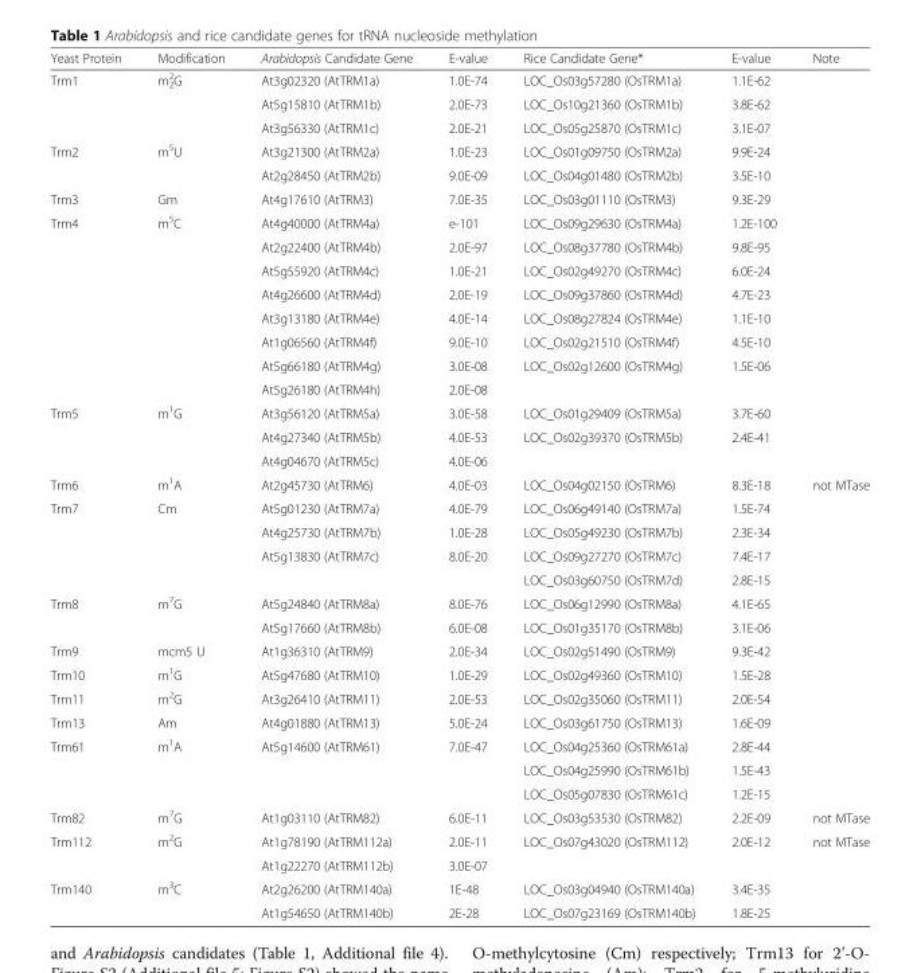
<table><thead><tr><td>Yeast Protein</td><td>Modification</td><td>Arabidopsis Candidate Gene</td><td>E-value</td><td>Rice Candidate Gene*</td><td>E-value</td><td>Note</td></tr></thead><tbody><tr><td rowspan="3">Trm1</td><td>m<sup>2</sup> <sub>2</sub>G</td><td>At3g02320 (AtTRM1a)</td><td>1.0E-74</td><td>LOC_Os03g57280 (OsTRM1a)</td><td>1.1E-62</td><td></td></tr><tr><td></td><td>At5g15810 (AtTRM1b)</td><td>2.0E-73</td><td>LOC_Os10g21360 (OsTRM1b)</td><td>3.8E-62</td><td></td></tr><tr><td></td><td>At3g56330 (AtTRM1c)</td><td>2.0E-21</td><td>LOC_Os05g25870 (OsTRM1c)</td><td>3.1E-07</td><td></td></tr><tr><td rowspan="2">Trm2</td><td>m<sup>5</sup>U</td><td>At3g21300 (AtTRM2a)</td><td>1.0E-23</td><td>LOC_Os01g09750 (OsTRM2a)</td><td>9.9E-24</td><td></td></tr><tr><td></td><td>At2g28450 (AtTRM2b)</td><td>9.0E-09</td><td>LOC_Os04g01480 (OsTRM2b)</td><td>3.5E-10</td><td></td></tr><tr><td>Trm3</td><td>Gm</td><td>At4g17610 (AtTRM3)</td><td>7.0E-35</td><td>LOC_Os03g01110 (OsTRM3)</td><td>9.3E-29</td><td></td></tr><tr><td rowspan="8">Trm4</td><td>m<sup>5</sup>C</td><td>At4g40000 (AtTRM4a)</td><td>e-101</td><td>LOC_Os09g29630 (OsTRM4a)</td><td>1.2E-100</td><td></td></tr><tr><td></td><td>At2g22400 (AtTRM4b)</td><td>2.0E-97</td><td>LOC_Os08g37780 (OsTRM4b)</td><td>9.8E-95</td><td></td></tr><tr><td></td><td>At5g55920 (AtTRM4c)</td><td>1.0E-21</td><td>LOC_Os02g49270 (OsTRM4c)</td><td>6.0E-24</td><td></td></tr><tr><td></td><td>At4g26600 (AtTRM4d)</td><td>2.0E-19</td><td>LOC_Os09g37860 (OsTRM4d)</td><td>4.7E-23</td><td></td></tr><tr><td></td><td>At3g13180 (AtTRM4e)</td><td>4.0E-14</td><td>LOC_Os08g27824 (OsTRM4e)</td><td>1.1E-10</td><td></td></tr><tr><td></td><td>At1g06560 (AtTRM4f)</td><td>9.0E-10</td><td>LOC_Os02g21510 (OsTRM4f)</td><td>4.5E-10</td><td></td></tr><tr><td></td><td>At5g66180 (AtTRM4g)</td><td>3.0E-08</td><td>LOC_Os02g12600 (OsTRM4g)</td><td>1.5E-06</td><td></td></tr><tr><td></td><td>At5g26180 (AtTRM4h)</td><td>2.0E-08</td><td></td><td></td><td></td></tr><tr><td rowspan="3">Trm5</td><td>m<sup>1</sup>G</td><td>At3g56120 (AtTRM5a)</td><td>3.0E-58</td><td>LOC_Os01g29409 (OsTRM5a)</td><td>3.7E-60</td><td></td></tr><tr><td></td><td>At4g27340 (AtTRM5b)</td><td>4.0E-53</td><td>LOC_Os02g39370 (OsTRM5b)</td><td>2.4E-41</td><td></td></tr><tr><td></td><td>At4g04670 (AtTRM5c)</td><td>4.0E-06</td><td></td><td></td><td></td></tr><tr><td>Trm6</td><td>m<sup>1</sup>A</td><td>At2g45730 (AtTRM6)</td><td>4.0E-03</td><td>LOC_Os04g02150 (OsTRM6)</td><td>8.3E-18</td><td>not MTase</td></tr><tr><td rowspan="4">Trm7</td><td>Cm</td><td>At5g01230 (AtTRM7a)</td><td>4.0E-79</td><td>LOC_Os06g49140 (OsTRM7a)</td><td>1.5E-74</td><td></td></tr><tr><td></td><td>At4g25730 (AtTRM7b)</td><td>1.0E-28</td><td>LOC_Os05g49230 (OsTRM7b)</td><td>2.3E-34</td><td></td></tr><tr><td></td><td>At5g13830 (AtTRM7c)</td><td>8.0E-20</td><td>LOC_Os09g27270 (OsTRM7c)</td><td>7.4E-17</td><td></td></tr><tr><td></td><td></td><td></td><td>LOC_Os03g60750 (OsTRM7d)</td><td>2.8E-15</td><td></td></tr><tr><td rowspan="2">Trm8</td><td>m<sup>7</sup>G</td><td>At5g24840 (AtTRM8a)</td><td>8.0E-76</td><td>LOC_Os06g12990 (OsTRM8a)</td><td>4.1E-65</td><td></td></tr><tr><td></td><td>At5g17660 (AtTRM8b)</td><td>6.0E-08</td><td>LOC_Os01g35170 (OsTRM8b)</td><td>3.1E-06</td><td></td></tr><tr><td>Trm9</td><td>mcm5 U</td><td>At1g36310 (AtTRM9)</td><td>2.0E-34</td><td>LOC_Os02g51490 (OsTRM9)</td><td>9.3E-42</td><td></td></tr><tr><td>Trm10</td><td>m<sup>1</sup>G</td><td>At5g47680 (AtTRM10)</td><td>1.0E-29</td><td>LOC_Os02g49360 (OsTRM10)</td><td>1.5E-28</td><td></td></tr><tr><td>Trm11</td><td>m<sup>2</sup>G</td><td>At3g26410 (AtTRM11)</td><td>2.0E-53</td><td>LOC_Os02g35060 (OsTRM11)</td><td>2.0E-54</td><td></td></tr><tr><td>Trm13</td><td>Am</td><td>At4g01880 (AtTRM13)</td><td>5.0E-24</td><td>LOC_Os03g61750 (OsTRM13)</td><td>1.6E-09</td><td></td></tr><tr><td rowspan="3">Trm61</td><td>m<sup>1</sup>A</td><td>At5g14600 (AtTRM61)</td><td>7.0E-47</td><td>LOC_Os04g25360 (OsTRM61a)</td><td>2.8E-44</td><td></td></tr><tr><td></td><td></td><td></td><td>LOC_Os04g25990 (OsTRM61b)</td><td>1.5E-43</td><td></td></tr><tr><td></td><td></td><td></td><td>LOC_Os05g07830 (OsTRM61c)</td><td>1.2E-15</td><td></td></tr><tr><td>Trm82</td><td>m<sup>7</sup>G</td><td>At1g03110 (AtTRM82)</td><td>6.0E-11</td><td>LOC_Os03g53530 (OsTRM82)</td><td>2.2E-09</td><td>not MTase</td></tr><tr><td rowspan="2">Trm112</td><td>m<sup>2</sup>G</td><td>At1g78190 (AtTRM112a)</td><td>2.0E-11</td><td>LOC_Os07g43020 (OsTRM112)</td><td>2.0E-12</td><td>not MTase</td></tr><tr><td></td><td>At1g22270 (AtTRM112b)</td><td>3.0E-07</td><td></td><td></td><td></td></tr><tr><td rowspan="2">Trm140</td><td>m<sup>3</sup>C</td><td>At2g26200 (AtTRM140a)</td><td>1E-48</td><td>LOC_Os03g04940 (OsTRM140a)</td><td>3.4E-35</td><td></td></tr><tr><td></td><td>At1g54650 (AtTRM140b)</td><td>2E-28</td><td>LOC_Os07g23169 (OsTRM140b)</td><td>1.8E-25</td><td></td></tr></tbody></table>